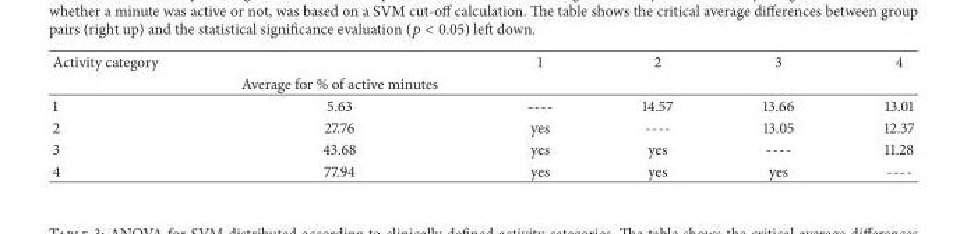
<table><thead><tr><td rowspan="2">Activity category</td><td rowspan="2">Average for % of active minutes</td><td rowspan="2">1</td><td rowspan="2">2</td><td rowspan="2">3</td><td rowspan="2">4</td></tr><tr></tr></thead><tbody><tr><td>1</td><td>5.63</td><td>----</td><td>14.57</td><td>13.66</td><td>13.01</td></tr><tr><td>2</td><td>27.76</td><td>yes</td><td>----</td><td>13.05</td><td>12.37</td></tr><tr><td>3</td><td>43.68</td><td>yes</td><td>yes</td><td>----</td><td>11.28</td></tr><tr><td>4</td><td>77.94</td><td>yes</td><td>yes</td><td>yes</td><td>----</td></tr></tbody></table>